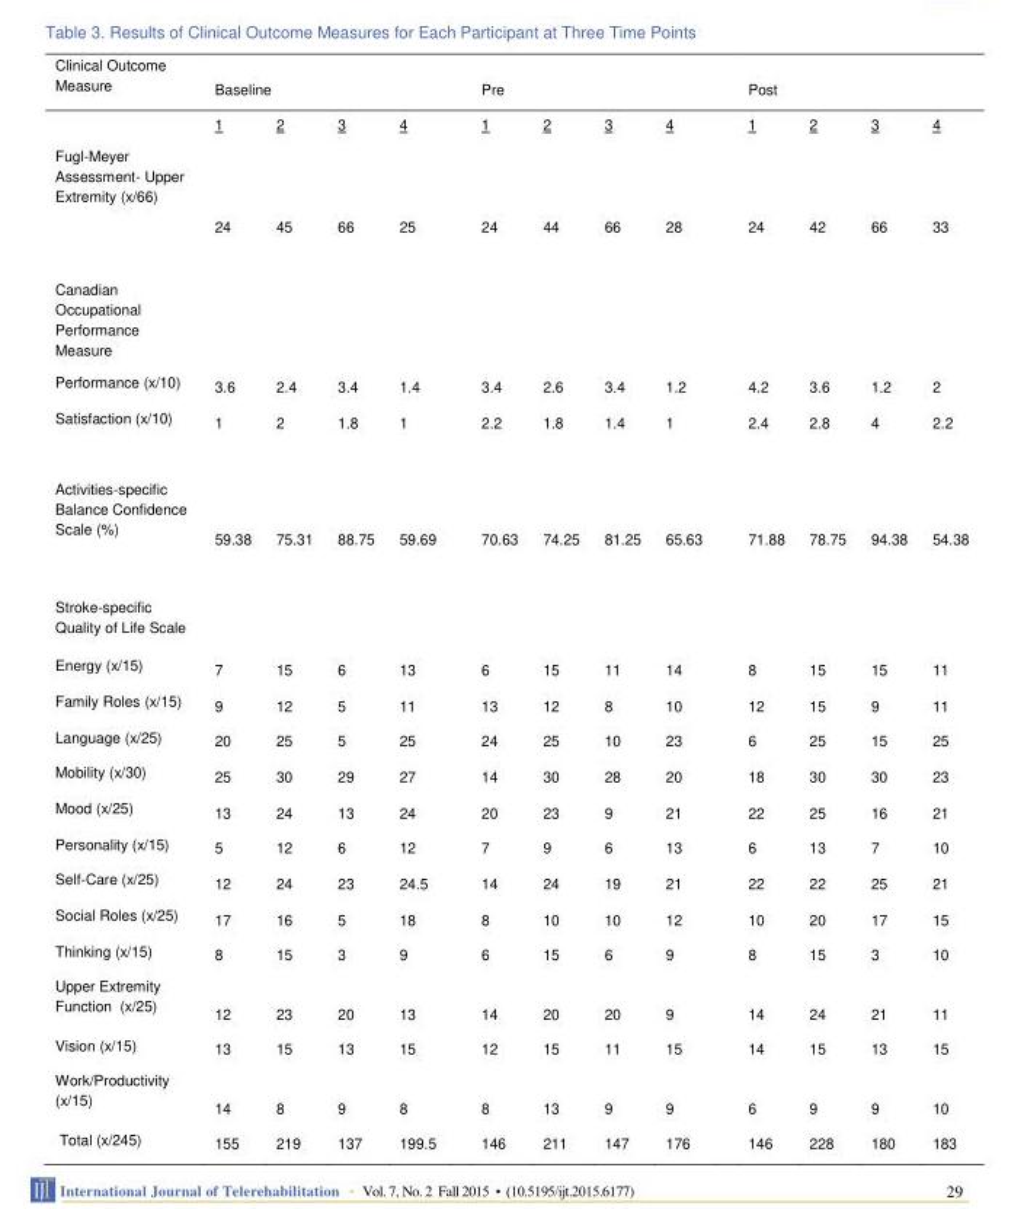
<table><thead><tr><td rowspan="2">Clinical Outcome Measure</td><td colspan="4">Baseline</td><td colspan="4">Pre</td><td colspan="4">Post</td></tr><tr><td>1</td><td>2</td><td>3</td><td>4</td><td>1</td><td>2</td><td>3</td><td>4</td><td>1</td><td>2</td><td>3</td><td>4</td></tr></thead><tbody><tr><td>Fugl-Meyer Assessment- Upper Extremity (x/66)</td><td>24</td><td>45</td><td>66</td><td>25</td><td>24</td><td>44</td><td>66</td><td>28</td><td>24</td><td>42</td><td>66</td><td>33</td></tr><tr><td colspan="13">Canadian Occupational Performance Measure</td></tr><tr><td>Performance (x/10)</td><td>3.6</td><td>2.4</td><td>3.4</td><td>1.4</td><td>3.4</td><td>2.6</td><td>3.4</td><td>1.2</td><td>4.2</td><td>3.6</td><td>1.2</td><td>2</td></tr><tr><td>Satisfaction (x/10)</td><td>1</td><td>2</td><td>1.8</td><td>1</td><td>2.2</td><td>1.8</td><td>1.4</td><td>1</td><td>2.4</td><td>2.8</td><td>4</td><td>2.2</td></tr><tr><td>Activities-specific Balance Confidence Scale (%)</td><td>59.38</td><td>75.31</td><td>88.75</td><td>59.69</td><td>70.63</td><td>74.25</td><td>81.25</td><td>65.63</td><td>71.88</td><td>78.75</td><td>94.38</td><td>54.38</td></tr><tr><td colspan="13">Stroke-specific Quality of Life Scale</td></tr><tr><td>Energy (x/15)</td><td>7</td><td>15</td><td>6</td><td>13</td><td>6</td><td>15</td><td>11</td><td>14</td><td>8</td><td>15</td><td>15</td><td>11</td></tr><tr><td>Family Roles (x/15)</td><td>9</td><td>12</td><td>5</td><td>11</td><td>13</td><td>12</td><td>8</td><td>10</td><td>12</td><td>15</td><td>9</td><td>11</td></tr><tr><td>Language (x/25)</td><td>20</td><td>25</td><td>5</td><td>25</td><td>24</td><td>25</td><td>10</td><td>23</td><td>6</td><td>25</td><td>15</td><td>25</td></tr><tr><td>Mobility (x/30)</td><td>25</td><td>30</td><td>29</td><td>27</td><td>14</td><td>30</td><td>28</td><td>20</td><td>18</td><td>30</td><td>30</td><td>23</td></tr><tr><td>Mood (x/25)</td><td>13</td><td>24</td><td>13</td><td>24</td><td>20</td><td>23</td><td>9</td><td>21</td><td>22</td><td>25</td><td>16</td><td>21</td></tr><tr><td>Personality (x/15)</td><td>5</td><td>12</td><td>6</td><td>12</td><td>7</td><td>9</td><td>6</td><td>13</td><td>6</td><td>13</td><td>7</td><td>10</td></tr><tr><td>Self-Care (x/25)</td><td>12</td><td>24</td><td>23</td><td>24.5</td><td>14</td><td>24</td><td>19</td><td>21</td><td>22</td><td>22</td><td>25</td><td>21</td></tr><tr><td>Social Roles (x/25)</td><td>17</td><td>16</td><td>5</td><td>18</td><td>8</td><td>10</td><td>10</td><td>12</td><td>10</td><td>20</td><td>17</td><td>15</td></tr><tr><td>Thinking (x/15)</td><td>8</td><td>15</td><td>3</td><td>9</td><td>6</td><td>15</td><td>6</td><td>9</td><td>8</td><td>15</td><td>3</td><td>10</td></tr><tr><td>Upper Extremity Function (x/25)</td><td>12</td><td>23</td><td>20</td><td>13</td><td>14</td><td>20</td><td>20</td><td>9</td><td>14</td><td>24</td><td>21</td><td>11</td></tr><tr><td>Vision (x/15)</td><td>13</td><td>15</td><td>13</td><td>15</td><td>12</td><td>15</td><td>11</td><td>15</td><td>14</td><td>15</td><td>13</td><td>15</td></tr><tr><td>Work/Productivity (x/15)</td><td>14</td><td>8</td><td>9</td><td>8</td><td>8</td><td>13</td><td>9</td><td>9</td><td>6</td><td>9</td><td>9</td><td>10</td></tr><tr><td>Total (x/245)</td><td>155</td><td>219</td><td>137</td><td>199.5</td><td>146</td><td>211</td><td>147</td><td>176</td><td>146</td><td>228</td><td>180</td><td>183</td></tr></tbody></table>